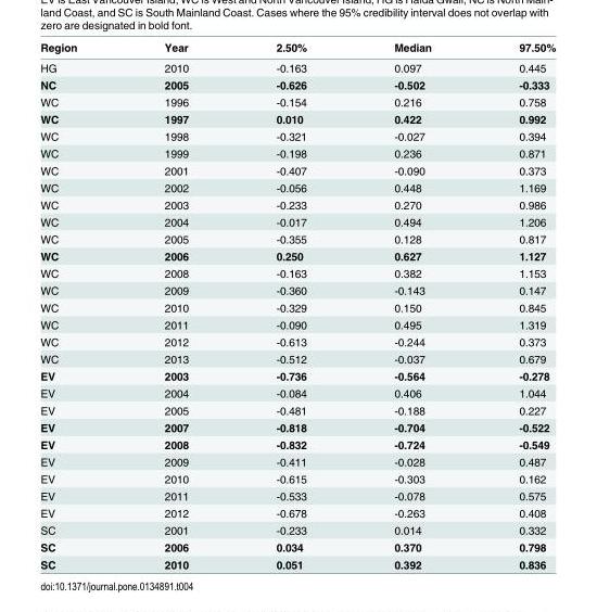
<table><thead><tr><td>Region</td><td>Year</td><td>2.50%</td><td>Median</td><td>97.50%</td></tr></thead><tbody><tr><td>HG</td><td>2010</td><td>-0.163</td><td>0.097</td><td>0.445</td></tr><tr><td>NC</td><td>2005</td><td>-0.626</td><td>-0.502</td><td>-0.333</td></tr><tr><td>WC</td><td>1996</td><td>-0.154</td><td>0.216</td><td>0.758</td></tr><tr><td>WC</td><td>1997</td><td>0.010</td><td>0.422</td><td>0.992</td></tr><tr><td>WC</td><td>1998</td><td>-0.321</td><td>-0.027</td><td>0.394</td></tr><tr><td>WC</td><td>1999</td><td>-0.198</td><td>0.236</td><td>0.871</td></tr><tr><td>WC</td><td>2001</td><td>-0.407</td><td>-0.090</td><td>0.373</td></tr><tr><td>WC</td><td>2002</td><td>-0.056</td><td>0.448</td><td>1.169</td></tr><tr><td>WC</td><td>2003</td><td>-0.233</td><td>0.270</td><td>0.986</td></tr><tr><td>WC</td><td>2004</td><td>-0.017</td><td>0.494</td><td>1.206</td></tr><tr><td>WC</td><td>2005</td><td>-0.355</td><td>0.128</td><td>0.817</td></tr><tr><td>WC</td><td>2006</td><td>0.250</td><td>0.627</td><td>1.127</td></tr><tr><td>WC</td><td>2008</td><td>-0.163</td><td>0.382</td><td>1.153</td></tr><tr><td>WC</td><td>2009</td><td>-0.360</td><td>-0.143</td><td>0.147</td></tr><tr><td>WC</td><td>2010</td><td>-0.329</td><td>0.150</td><td>0.845</td></tr><tr><td>WC</td><td>2011</td><td>-0.090</td><td>0.495</td><td>1.319</td></tr><tr><td>WC</td><td>2012</td><td>-0.613</td><td>-0.244</td><td>0.373</td></tr><tr><td>WC</td><td>2013</td><td>-0.512</td><td>-0.037</td><td>0.679</td></tr><tr><td>EV</td><td>2003</td><td>-0.736</td><td>-0.564</td><td>-0.278</td></tr><tr><td>EV</td><td>2004</td><td>-0.084</td><td>0.406</td><td>1.044</td></tr><tr><td>EV</td><td>2005</td><td>-0.481</td><td>-0.188</td><td>0.227</td></tr><tr><td>EV</td><td>2007</td><td>-0.818</td><td>-0.704</td><td>-0.522</td></tr><tr><td>EV</td><td>2008</td><td>-0.832</td><td>-0.724</td><td>-0.549</td></tr><tr><td>EV</td><td>2009</td><td>-0.411</td><td>-0.028</td><td>0.487</td></tr><tr><td>EV</td><td>2010</td><td>-0.615</td><td>-0.303</td><td>0.162</td></tr><tr><td>EV</td><td>2011</td><td>-0.533</td><td>-0.078</td><td>0.575</td></tr><tr><td>EV</td><td>2012</td><td>-0.678</td><td>-0.263</td><td>0.408</td></tr><tr><td>SC</td><td>2001</td><td>-0.233</td><td>0.014</td><td>0.332</td></tr><tr><td>SC</td><td>2006</td><td>0.034</td><td>0.370</td><td>0.798</td></tr><tr><td>SC</td><td>2010</td><td>0.051</td><td>0.392</td><td>0.836</td></tr></tbody></table>